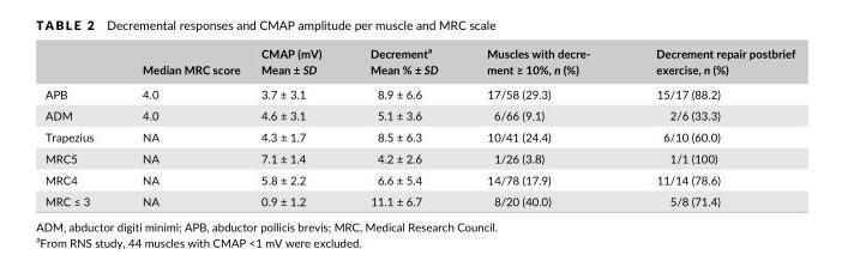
<table><thead><tr><td></td><td>Median MRC score</td><td>CMAP (mV) Mean ± SD</td><td>Decrement<sup>a</sup> Mean % ± SD</td><td>Muscles with decre- ment ≥ 10%, n (%)</td><td>Decrement repair postbrief exercise, n (%)</td></tr></thead><tbody><tr><td>APB</td><td>4.0</td><td>3.7 ± 3.1</td><td>8.9 ± 6.6</td><td>17/58 (29.3)</td><td>15/17 (88.2)</td></tr><tr><td>ADM</td><td>4.0</td><td>4.6 ± 3.1</td><td>5.1 ± 3.6</td><td>6/66 (9.1)</td><td>2/6 (33.3)</td></tr><tr><td>Trapezius</td><td>NA</td><td>4.3 ± 1.7</td><td>8.5 ± 6.3</td><td>10/41 (24.4)</td><td>6/10 (60.0)</td></tr><tr><td>MRC5</td><td>NA</td><td>7.1 ± 1.4</td><td>4.2 ± 2.6</td><td>1/26 (3.8)</td><td>1/1 (100)</td></tr><tr><td>MRC4</td><td>NA</td><td>5.8 ± 2.2</td><td>6.6 ± 5.4</td><td>14/78 (17.9)</td><td>11/14 (78.6)</td></tr><tr><td>MRC ≤ 3</td><td>NA</td><td>0.9 ± 1.2</td><td>11.1 ± 6.7</td><td>8/20 (40.0)</td><td>5/8 (71.4)</td></tr></tbody></table>